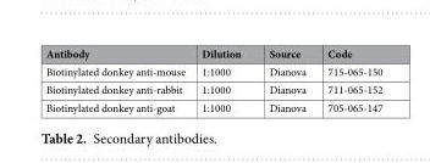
<table><thead><tr><td>Antibody</td><td>Dilution</td><td>Source</td><td>Code</td></tr></thead><tbody><tr><td>Biotinylated donkey anti-mouse</td><td>1:1000</td><td>Dianova</td><td>715-065-150</td></tr><tr><td>Biotinylated donkey anti-rabbit</td><td>1:1000</td><td>Dianova</td><td>711-065-152</td></tr><tr><td>Biotinylated donkey anti-goat</td><td>1:1000</td><td>Dianova</td><td>705-065-147</td></tr></tbody></table>